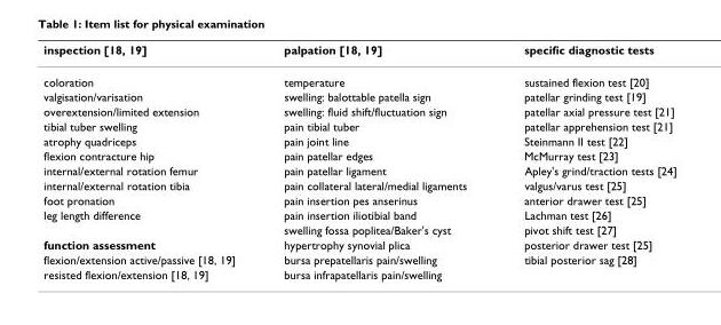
<table><thead><tr><td>inspection [18, 19]</td><td>palpation [18, 19]</td><td>specific diagnostic tests</td></tr></thead><tbody><tr><td>coloration</td><td>temperature</td><td>sustained flexion test [20]</td></tr><tr><td>valgisation/varisation</td><td>swelling: balottable patella sign</td><td>patellar grinding test [19]</td></tr><tr><td>overextension/limited extension</td><td>swelling: fluid shift/fluctuation sign</td><td>patellar axial pressure test [21]</td></tr><tr><td>tibial tuber swelling</td><td>pain tibial tuber</td><td>patellar apprehension test [21]</td></tr><tr><td>atrophy quadriceps</td><td>pain joint line</td><td>Steinmann II test [22]</td></tr><tr><td>flexion contracture hip</td><td>pain patellar edges</td><td>McMurray test [23]</td></tr><tr><td>internal/external rotation femur</td><td>pain patellar ligament</td><td>Apley&#x27;s grind/traction tests [24]</td></tr><tr><td>internal/external rotation tibia</td><td>pain collateral lateral/medial ligaments</td><td>valgus/varus test [25]</td></tr><tr><td>foot pronation</td><td>pain insertion pes anserinus</td><td>anterior drawer test [25]</td></tr><tr><td rowspan="2">leg length difference</td><td>pain insertion iliotibial band</td><td>Lachman test [26]</td></tr><tr><td>swelling fossa poplitea/Baker&#x27;s cyst</td><td>pivot shift test [27]</td></tr><tr><td>function assessment</td><td>hypertrophy synovial plica</td><td>posterior drawer test [25]</td></tr><tr><td>flexion/extension active/passive [18, 19]</td><td>bursa prepatellaris pain/swelling</td><td>tibial posterior sag [28]</td></tr><tr><td>resisted flexion/extension [18, 19]</td><td>bursa infrapatellaris pain/swelling</td><td></td></tr></tbody></table>